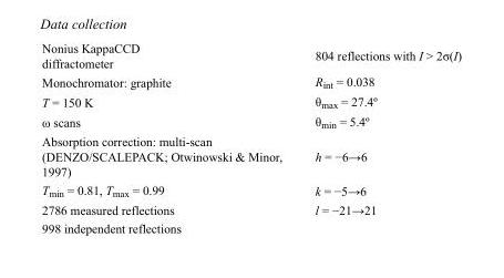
<table><tbody><tr><td>Nonius KappaCCD diffractometer</td><td>804 reflections with I &gt; 2σ(I)</td></tr><tr><td>Monochromator: graphite</td><td>R<sub>int</sub> = 0.038</td></tr><tr><td>T = 150 K</td><td>θ<sub>max</sub> = 27.4º</td></tr><tr><td>ω scans</td><td>θ<sub>min</sub> = 5.4º</td></tr><tr><td>Absorption correction: multi-scan (DENZO/SCALEPACK; Otwinowski &amp; Minor, 1997)</td><td>h = −6→6</td></tr><tr><td>T<sub>min</sub> = 0.81, T<sub>max</sub> = 0.99</td><td>k = −5→6</td></tr><tr><td>2786 measured reflections</td><td>l = −21→21</td></tr><tr><td>998 independent reflections</td><td></td></tr></tbody></table>